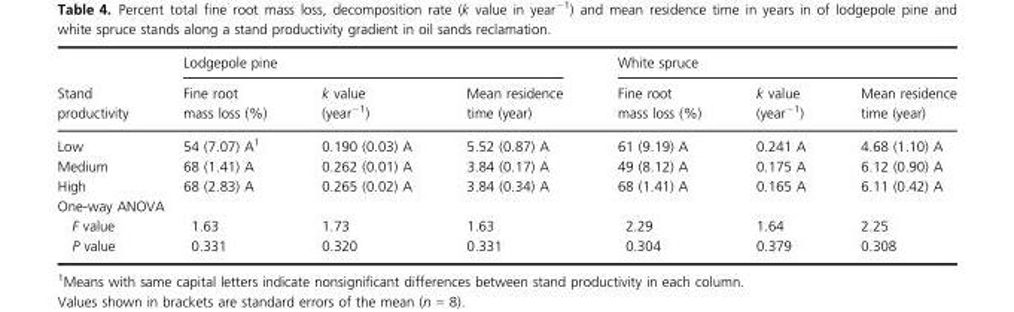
<table><thead><tr><td rowspan="2">Stand productivity</td><td colspan="3">Lodgepole pine</td><td colspan="3">White spruce</td></tr><tr><td>Fine root mass loss (%)</td><td>k value (year<sup>−1</sup>)</td><td>Mean residence time (year)</td><td>Fine root mass loss (%)</td><td>k value (year<sup>−1</sup>)</td><td>Mean residence time (year)</td></tr></thead><tbody><tr><td>Low</td><td>54 (7.07) A1</td><td>0.190 (0.03) A</td><td>5.52 (0.87) A</td><td>61 (9.19) A</td><td>0.241 A</td><td>4.68 (1.10) A</td></tr><tr><td>Medium</td><td>68 (1.41) A</td><td>0.262 (0.01) A</td><td>3.84 (0.17) A</td><td>49 (8.12) A</td><td>0.175 A</td><td>6.12 (0.90) A</td></tr><tr><td>High</td><td>68 (2.83) A</td><td>0.265 (0.02) A</td><td>3.84 (0.34) A</td><td>68 (1.41) A</td><td>0.165 A</td><td>6.11 (0.42) A</td></tr><tr><td colspan="7">One-way ANOVA</td></tr><tr><td>F value</td><td>1.63</td><td>1.73</td><td>1.63</td><td>2.29</td><td>1.64</td><td>2.25</td></tr><tr><td>P value</td><td>0.331</td><td>0.320</td><td>0.331</td><td>0.304</td><td>0.379</td><td>0.308</td></tr></tbody></table>